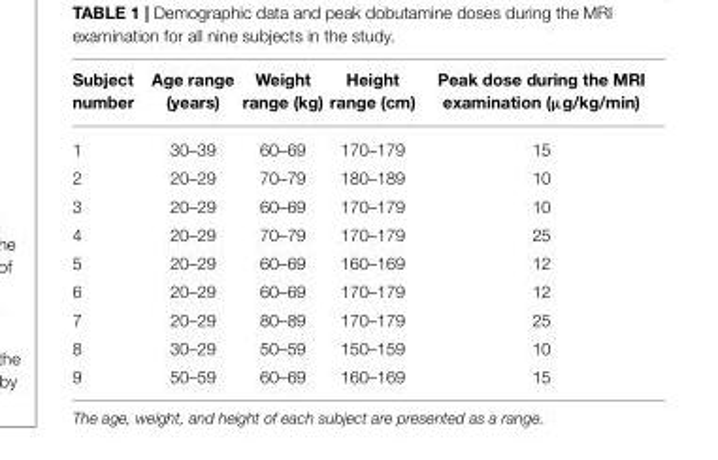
<table><thead><tr><td>Subject number</td><td>Age range (years)</td><td>Weight range (kg)</td><td>Height range (cm)</td><td>Peak dose during the MRI examination (µg/kg/min)</td></tr></thead><tbody><tr><td>1</td><td>30–39</td><td>60–69</td><td>170–179</td><td>15</td></tr><tr><td>2</td><td>20–29</td><td>70–79</td><td>180–189</td><td>10</td></tr><tr><td>3</td><td>20–29</td><td>60–69</td><td>170–179</td><td>10</td></tr><tr><td>4</td><td>20–29</td><td>70–79</td><td>170–179</td><td>25</td></tr><tr><td>5</td><td>20–29</td><td>60–69</td><td>160–169</td><td>12</td></tr><tr><td>6</td><td>20–29</td><td>60–69</td><td>170–179</td><td>12</td></tr><tr><td>7</td><td>20–29</td><td>80–89</td><td>170–179</td><td>25</td></tr><tr><td>8</td><td>30–29</td><td>50–59</td><td>150–159</td><td>10</td></tr><tr><td>9</td><td>50–59</td><td>60–69</td><td>160–169</td><td>15</td></tr></tbody></table>